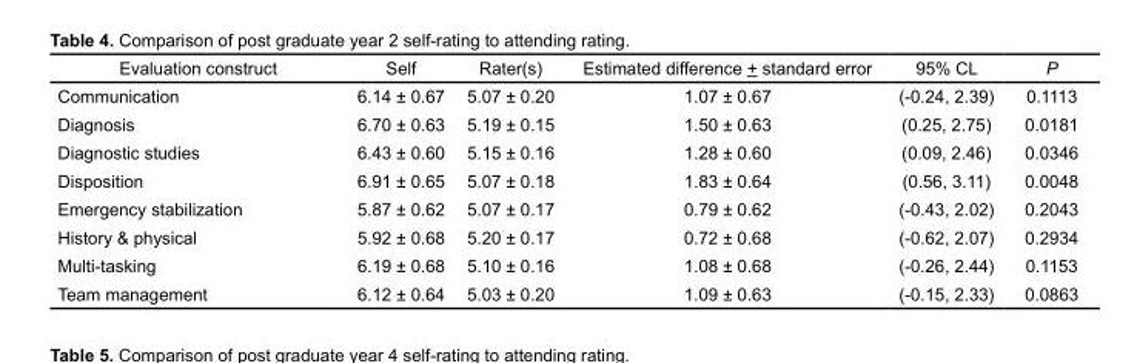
<table><thead><tr><td>Evaluation construct</td><td>Self</td><td>Rater(s)</td><td>Estimated difference + standard error</td><td>95% CL</td><td>P</td></tr></thead><tbody><tr><td>Communication</td><td>6.14 ± 0.67</td><td>5.07 ± 0.20</td><td>1.07 ± 0.67</td><td>(-0.24, 2.39)</td><td>0.1113</td></tr><tr><td>Diagnosis</td><td>6.70 ± 0.63</td><td>5.19 ± 0.15</td><td>1.50 ± 0.63</td><td>(0.25, 2.75)</td><td>0.0181</td></tr><tr><td>Diagnostic studies</td><td>6.43 ± 0.60</td><td>5.15 ± 0.16</td><td>1.28 ± 0.60</td><td>(0.09, 2.46)</td><td>0.0346</td></tr><tr><td>Disposition</td><td>6.91 ± 0.65</td><td>5.07 ± 0.18</td><td>1.83 ± 0.64</td><td>(0.56, 3.11)</td><td>0.0048</td></tr><tr><td>Emergency stabilization</td><td>5.87 ± 0.62</td><td>5.07 ± 0.17</td><td>0.79 ± 0.62</td><td>(-0.43, 2.02)</td><td>0.2043</td></tr><tr><td>History &amp; physical</td><td>5.92 ± 0.68</td><td>5.20 ± 0.17</td><td>0.72 ± 0.68</td><td>(-0.62, 2.07)</td><td>0.2934</td></tr><tr><td>Multi-tasking</td><td>6.19 ± 0.68</td><td>5.10 ± 0.16</td><td>1.08 ± 0.68</td><td>(-0.26, 2.44)</td><td>0.1153</td></tr><tr><td>Team management</td><td>6.12 ± 0.64</td><td>5.03 ± 0.20</td><td>1.09 ± 0.63</td><td>(-0.15, 2.33)</td><td>0.0863</td></tr></tbody></table>